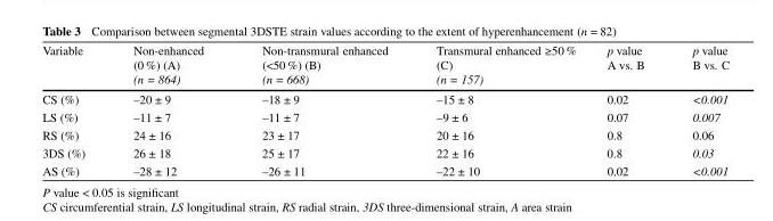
<table><thead><tr><td>Variable</td><td>Non-enhanced (0 %) (A) (n = 864)</td><td>Non-transmural enhanced (&lt;50 %) (B) (n = 668)</td><td>Transmural enhanced ≥50 % (C) (n = 157)</td><td>p value A vs. B</td><td>p value B vs. C</td></tr></thead><tbody><tr><td>CS (%)</td><td>–20 ± 9</td><td>–18 ± 9</td><td>–15 ± 8</td><td>0.02</td><td>&lt;0.001</td></tr><tr><td>LS (%)</td><td>–11 ± 7</td><td>–11 ± 7</td><td>–9 ± 6</td><td>0.07</td><td>0.007</td></tr><tr><td>RS (%)</td><td>24 ± 16</td><td>23 ± 17</td><td>20 ± 16</td><td>0.8</td><td>0.06</td></tr><tr><td>3DS (%)</td><td>26 ± 18</td><td>25 ± 17</td><td>22 ± 16</td><td>0.8</td><td>0.03</td></tr><tr><td>AS (%)</td><td>–28 ± 12</td><td>–26 ± 11</td><td>–22 ± 10</td><td>0.02</td><td>&lt;0.001</td></tr></tbody></table>